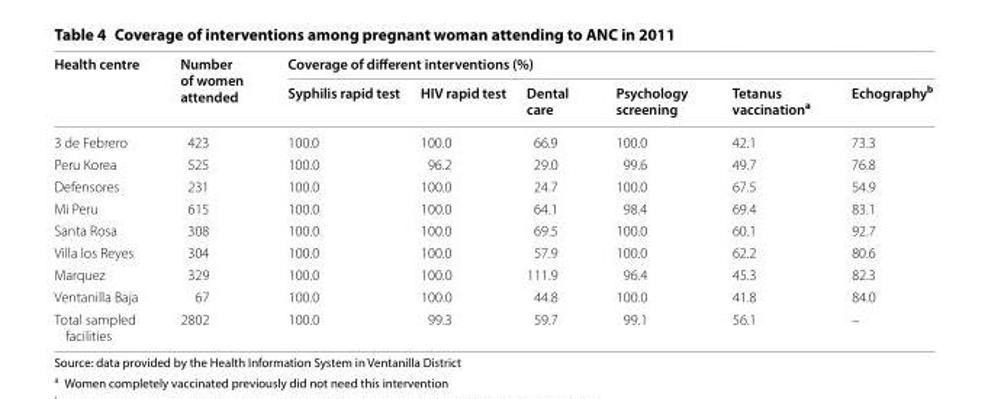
<table><thead><tr><td rowspan="2">Health centre</td><td rowspan="2">Number of women attended</td><td colspan="6">Coverage of different interventions (%)</td></tr><tr><td>Syphilis rapid test</td><td>HIV rapid test</td><td>Dental care</td><td>Psychology screening</td><td>Tetanus vaccination<sup>a</sup></td><td>Echography<sup>b</sup></td></tr></thead><tbody><tr><td>3 de Febrero</td><td>423</td><td>100.0</td><td>100.0</td><td>66.9</td><td>100.0</td><td>42.1</td><td>73.3</td></tr><tr><td>Peru Korea</td><td>525</td><td>100.0</td><td>96.2</td><td>29.0</td><td>99.6</td><td>49.7</td><td>76.8</td></tr><tr><td>Defensores</td><td>231</td><td>100.0</td><td>100.0</td><td>24.7</td><td>100.0</td><td>67.5</td><td>54.9</td></tr><tr><td>Mi Peru</td><td>615</td><td>100.0</td><td>100.0</td><td>64.1</td><td>98.4</td><td>69.4</td><td>83.1</td></tr><tr><td>Santa Rosa</td><td>308</td><td>100.0</td><td>100.0</td><td>69.5</td><td>100.0</td><td>60.1</td><td>92.7</td></tr><tr><td>Villa los Reyes</td><td>304</td><td>100.0</td><td>100.0</td><td>57.9</td><td>100.0</td><td>62.2</td><td>80.6</td></tr><tr><td>Marquez</td><td>329</td><td>100.0</td><td>100.0</td><td>111.9</td><td>96.4</td><td>45.3</td><td>82.3</td></tr><tr><td>Ventanilla Baja</td><td>67</td><td>100.0</td><td>100.0</td><td>44.8</td><td>100.0</td><td>41.8</td><td>84.0</td></tr><tr><td>Total sampled facilities</td><td>2802</td><td>100.0</td><td>99.3</td><td>59.7</td><td>99.1</td><td>56.1</td><td>–</td></tr></tbody></table>